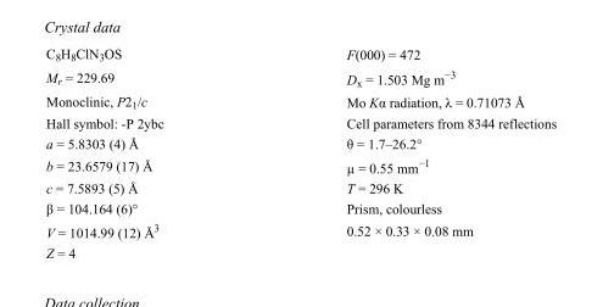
<table><tbody><tr><td>C<sub>8</sub>H<sub>8</sub>ClN<sub>3</sub>OS</td><td>F(000) = 472</td></tr><tr><td>M<sub>r</sub> = 229.69</td><td>D<sub>x</sub> = 1.503 Mg m<sup>−3</sup></td></tr><tr><td>Monoclinic, P2<sub>1</sub>/c</td><td>Mo Kα radiation, λ = 0.71073 Å</td></tr><tr><td>Hall symbol: -P 2ybc</td><td>Cell parameters from 8344 reflections</td></tr><tr><td>a = 5.8303 (4) Å</td><td>θ = 1.7–26.2°</td></tr><tr><td>b = 23.6579 (17) Å</td><td>µ = 0.55 mm<sup>−1</sup></td></tr><tr><td>c = 7.5893 (5) Å</td><td>T = 296 K</td></tr><tr><td>β = 104.164 (6)°</td><td>Prism, colourless</td></tr><tr><td>V = 1014.99 (12) Å<sup>3</sup></td><td>0.52 × 0.33 × 0.08 mm</td></tr><tr><td>Z = 4</td><td></td></tr></tbody></table>